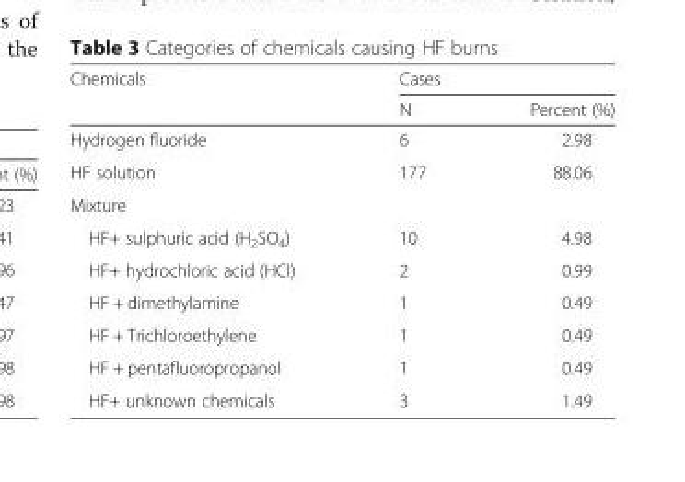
<table><thead><tr><td rowspan="2">Chemicals</td><td colspan="2">Cases</td></tr><tr><td>N</td><td>Percent (%)</td></tr></thead><tbody><tr><td>Hydrogen fluoride</td><td>6</td><td>2.98</td></tr><tr><td>HF solution</td><td>177</td><td>88.06</td></tr><tr><td colspan="3">Mixture</td></tr><tr><td>HF+ sulphuric acid (H<sub>2</sub>SO<sub>4</sub>)</td><td>10</td><td>4.98</td></tr><tr><td>HF+ hydrochloric acid (HCl)</td><td>2</td><td>0.99</td></tr><tr><td>HF + dimethylamine</td><td>1</td><td>0.49</td></tr><tr><td>HF + Trichloroethylene</td><td>1</td><td>0.49</td></tr><tr><td>HF + pentafluoropropanol</td><td>1</td><td>0.49</td></tr><tr><td>HF+ unknown chemicals</td><td>3</td><td>1.49</td></tr></tbody></table>